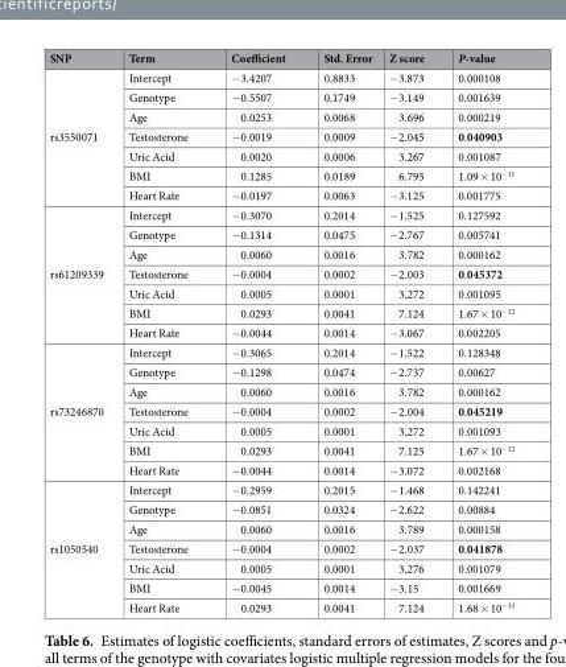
<table><thead><tr><td>SNP</td><td>Term</td><td>Coefficient</td><td>Std. Error</td><td>Z score</td><td>P-value</td></tr></thead><tbody><tr><td rowspan="7">rs3550071</td><td>Intercept</td><td>−3.4207</td><td>0.8833</td><td>−3.873</td><td>0.000108</td></tr><tr><td>Genotype</td><td>−0.5507</td><td>0.1749</td><td>−3.149</td><td>0.001639</td></tr><tr><td>Age</td><td>0.0253</td><td>0.0068</td><td>3.696</td><td>0.000219</td></tr><tr><td>Testosterone</td><td>−0.0019</td><td>0.0009</td><td>−2.045</td><td>0.040903</td></tr><tr><td>Uric Acid</td><td>0.0020</td><td>0.0006</td><td>3.267</td><td>0.001087</td></tr><tr><td>BMI</td><td>0.1285</td><td>0.0189</td><td>6.795</td><td>1.09 × 10<sup>−11</sup></td></tr><tr><td>Heart Rate</td><td>−0.0197</td><td>0.0063</td><td>−3.125</td><td>0.001775</td></tr><tr><td rowspan="7">rs61209339</td><td>Intercept</td><td>−0.3070</td><td>0.2014</td><td>−1.525</td><td>0.127592</td></tr><tr><td>Genotype</td><td>−0.1314</td><td>0.0475</td><td>−2.767</td><td>0.005741</td></tr><tr><td>Age</td><td>0.0060</td><td>0.0016</td><td>3.782</td><td>0.000162</td></tr><tr><td>Testosterone</td><td>−0.0004</td><td>0.0002</td><td>−2.003</td><td>0.045372</td></tr><tr><td>Uric Acid</td><td>0.0005</td><td>0.0001</td><td>3.272</td><td>0.001095</td></tr><tr><td>BMI</td><td>0.0293</td><td>0.0041</td><td>7.124</td><td>1.67 × 10<sup>−12</sup></td></tr><tr><td>Heart Rate</td><td>−0.0044</td><td>0.0014</td><td>−3.067</td><td>0.002205</td></tr><tr><td rowspan="7">rs73246870</td><td>Intercept</td><td>−0.3065</td><td>0.2014</td><td>−1.522</td><td>0.128348</td></tr><tr><td>Genotype</td><td>−0.1298</td><td>0.0474</td><td>−2.737</td><td>0.00627</td></tr><tr><td>Age</td><td>0.0060</td><td>0.0016</td><td>3.782</td><td>0.000162</td></tr><tr><td>Testosterone</td><td>−0.0004</td><td>0.0002</td><td>−2.004</td><td>0.045219</td></tr><tr><td>Uric Acid</td><td>0.0005</td><td>0.0001</td><td>3.272</td><td>0.001093</td></tr><tr><td>BMI</td><td>0.0293</td><td>0.0041</td><td>7.125</td><td>1.67 × 10<sup>−12</sup></td></tr><tr><td>Heart Rate</td><td>−0.0044</td><td>0.0014</td><td>−3.072</td><td>0.002168</td></tr><tr><td rowspan="7">rs1050540</td><td>Intercept</td><td>−0.2959</td><td>0.2015</td><td>−1.468</td><td>0.142241</td></tr><tr><td>Genotype</td><td>−0.0851</td><td>0.0324</td><td>−2.622</td><td>0.00884</td></tr><tr><td>Age</td><td>0.0060</td><td>0.0016</td><td>3.789</td><td>0.000158</td></tr><tr><td>Testosterone</td><td>−0.0004</td><td>0.0002</td><td>−2.037</td><td>0.041878</td></tr><tr><td>Uric Acid</td><td>0.0005</td><td>0.0001</td><td>3.276</td><td>0.001079</td></tr><tr><td>BMI</td><td>−0.0045</td><td>0.0014</td><td>−3.15</td><td>0.001669</td></tr><tr><td>Heart Rate</td><td>0.0293</td><td>0.0041</td><td>7.124</td><td>1.68 × 10<sup>−12</sup></td></tr></tbody></table>